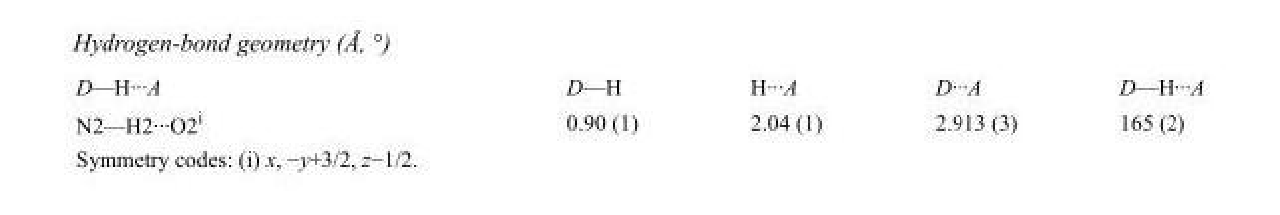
<table><tbody><tr><td>D—H···A</td><td>D—H</td><td>H···A</td><td>D···A</td><td>D—H···A</td></tr><tr><td>N2—H2···O2<sup>i</sup></td><td>0.90 (1)</td><td>2.04 (1)</td><td>2.913 (3)</td><td>165 (2)</td></tr></tbody></table>